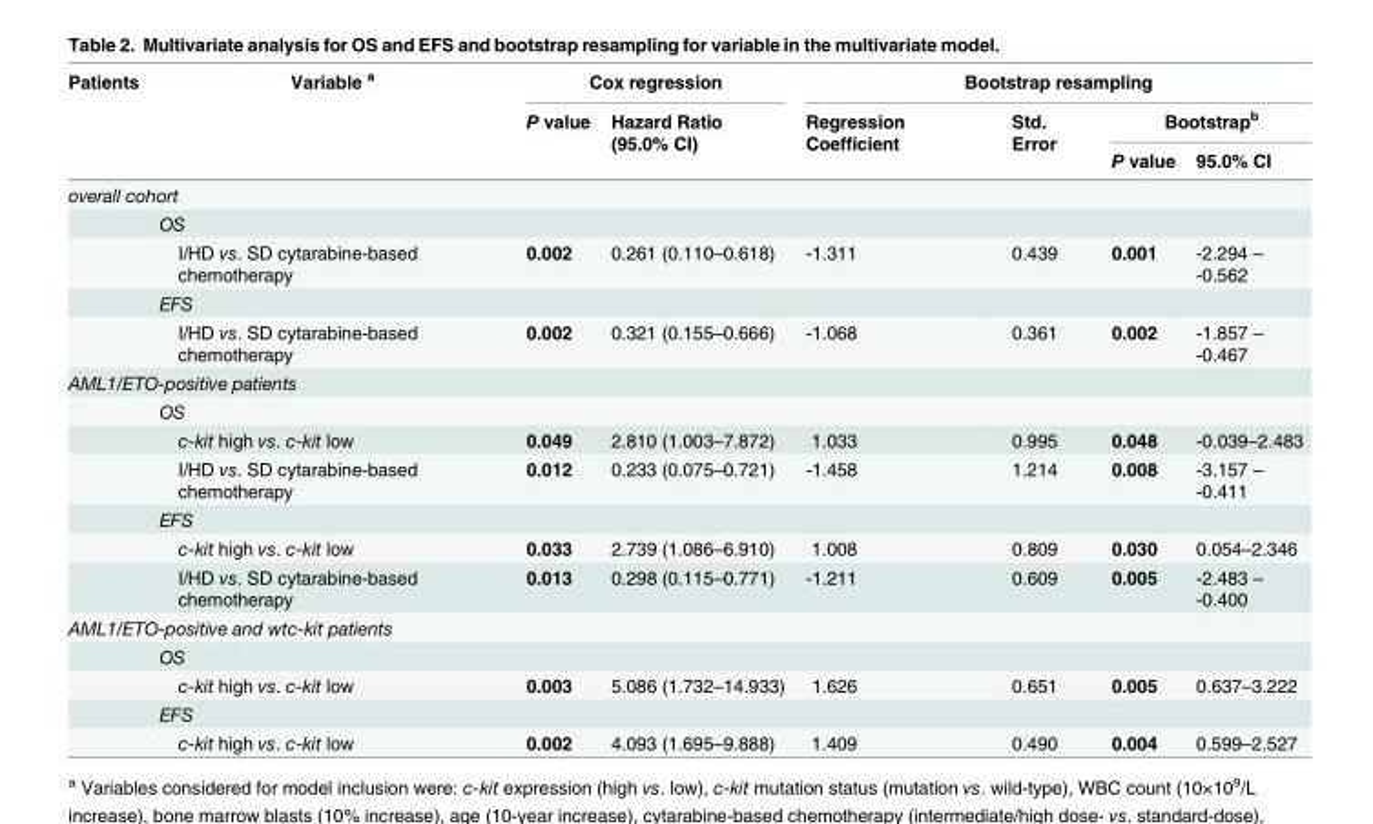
<table><thead><tr><td rowspan="3">Patients</td><td rowspan="3">Variable <sup>a</sup></td><td colspan="2">Cox regression</td><td colspan="4">Bootstrap resampling</td></tr><tr><td rowspan="2">P value</td><td rowspan="2">Hazard Ratio (95.0% CI)</td><td rowspan="2">Regression Coefficient</td><td rowspan="2">Std. Error</td><td colspan="2">Bootstrap<sup>b</sup></td></tr><tr><td>P value</td><td>95.0% CI</td></tr></thead><tbody><tr><td colspan="8">overall cohort</td></tr><tr><td></td><td colspan="7">OS</td></tr><tr><td></td><td>I/HD vs. SD cytarabine-based chemotherapy</td><td>0.002</td><td>0.261 (0.110–0.618)</td><td>-1.311</td><td>0.439</td><td>0.001</td><td>-2.294 – -0.562</td></tr><tr><td></td><td colspan="7">EFS</td></tr><tr><td></td><td>I/HD vs. SD cytarabine-based chemotherapy</td><td>0.002</td><td>0.321 (0.155–0.666)</td><td>-1.068</td><td>0.361</td><td>0.002</td><td>-1.857 – -0.467</td></tr><tr><td colspan="8">AML1/ETO-positive patients</td></tr><tr><td></td><td colspan="7">OS</td></tr><tr><td></td><td>c-kit high vs. c-kit low</td><td>0.049</td><td>2.810 (1.003–7.872)</td><td>1.033</td><td>0.995</td><td>0.048</td><td>-0.039–2.483</td></tr><tr><td></td><td>I/HD vs. SD cytarabine-based chemotherapy</td><td>0.012</td><td>0.233 (0.075–0.721)</td><td>-1.458</td><td>1.214</td><td>0.008</td><td>-3.157 – -0.411</td></tr><tr><td></td><td colspan="7">EFS</td></tr><tr><td></td><td>c-kit high vs. c-kit low</td><td>0.033</td><td>2.739 (1.086–6.910)</td><td>1.008</td><td>0.809</td><td>0.030</td><td>0.054–2.346</td></tr><tr><td></td><td>I/HD vs. SD cytarabine-based chemotherapy</td><td>0.013</td><td>0.298 (0.115–0.771)</td><td>-1.211</td><td>0.609</td><td>0.005</td><td>-2.483 – -0.400</td></tr><tr><td colspan="8">AML1/ETO-positive and wtc-kit patients</td></tr><tr><td></td><td colspan="7">OS</td></tr><tr><td></td><td>c-kit high vs. c-kit low</td><td>0.003</td><td>5.086 (1.732–14.933)</td><td>1.626</td><td>0.651</td><td>0.005</td><td>0.637–3.222</td></tr><tr><td></td><td colspan="7">EFS</td></tr><tr><td></td><td>c-kit high vs. c-kit low</td><td>0.002</td><td>4.093 (1.695–9.888)</td><td>1.409</td><td>0.490</td><td>0.004</td><td>0.599–2.527</td></tr></tbody></table>